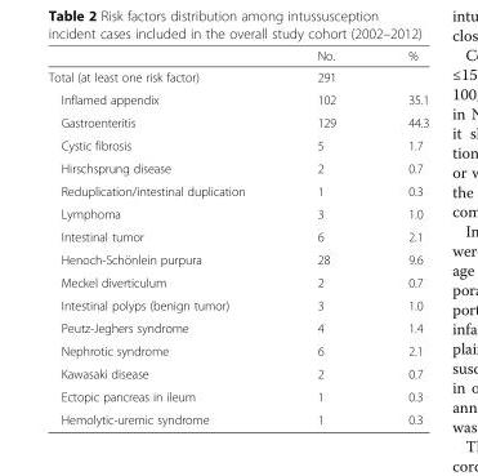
<table><thead><tr><td></td><td>No.</td><td>%</td></tr></thead><tbody><tr><td>Total (at least one risk factor)</td><td>291</td><td></td></tr><tr><td>Inflamed appendix</td><td>102</td><td>35.1</td></tr><tr><td>Gastroenteritis</td><td>129</td><td>44.3</td></tr><tr><td>Cystic fibrosis</td><td>5</td><td>1.7</td></tr><tr><td>Hirschsprung disease</td><td>2</td><td>0.7</td></tr><tr><td>Reduplication/intestinal duplication</td><td>1</td><td>0.3</td></tr><tr><td>Lymphoma</td><td>3</td><td>1.0</td></tr><tr><td>Intestinal tumor</td><td>6</td><td>2.1</td></tr><tr><td>Henoch-Schönlein purpura</td><td>28</td><td>9.6</td></tr><tr><td>Meckel diverticulum</td><td>2</td><td>0.7</td></tr><tr><td>Intestinal polyps (benign tumor)</td><td>3</td><td>1.0</td></tr><tr><td>Peutz-Jeghers syndrome</td><td>4</td><td>1.4</td></tr><tr><td>Nephrotic syndrome</td><td>6</td><td>2.1</td></tr><tr><td>Kawasaki disease</td><td>2</td><td>0.7</td></tr><tr><td>Ectopic pancreas in ileum</td><td>1</td><td>0.3</td></tr><tr><td>Hemolytic-uremic syndrome</td><td>1</td><td>0.3</td></tr></tbody></table>